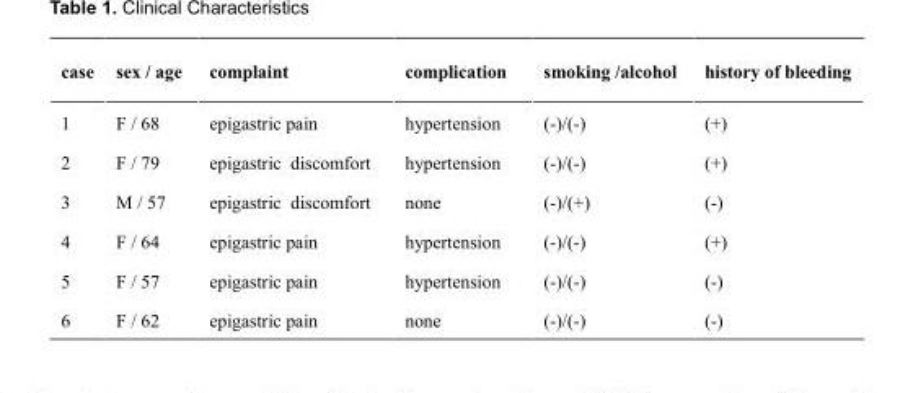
<table><thead><tr><td>case</td><td>sex / age</td><td>complaint</td><td>complication</td><td>smoking /alcohol</td><td>history of bleeding</td></tr></thead><tbody><tr><td>1</td><td>F / 68</td><td>epigastric pain</td><td>hypertension</td><td>(-)/(-)</td><td>(+)</td></tr><tr><td>2</td><td>F / 79</td><td>epigastric discomfort</td><td>hypertension</td><td>(-)/(-)</td><td>(+)</td></tr><tr><td>3</td><td>M / 57</td><td>epigastric discomfort</td><td>none</td><td>(-)/(+)</td><td>(-)</td></tr><tr><td>4</td><td>F / 64</td><td>epigastric pain</td><td>hypertension</td><td>(-)/(-)</td><td>(+)</td></tr><tr><td>5</td><td>F / 57</td><td>epigastric pain</td><td>hypertension</td><td>(-)/(-)</td><td>(-)</td></tr><tr><td>6</td><td>F / 62</td><td>epigastric pain</td><td>none</td><td>(-)/(-)</td><td>(-)</td></tr></tbody></table>